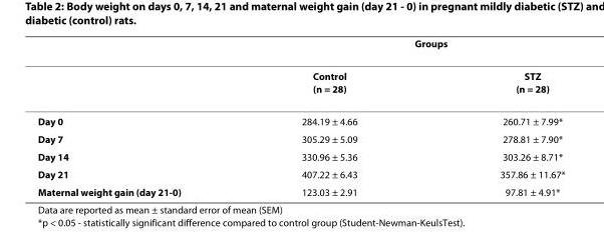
<table><thead><tr><td rowspan="2"></td><td colspan="2">Groups</td></tr><tr><td>Control (n = 28)</td><td>STZ (n = 28)</td></tr></thead><tbody><tr><td>Day 0</td><td>284.19 ± 4.66</td><td>260.71 ± 7.99*</td></tr><tr><td>Day 7</td><td>305.29 ± 5.09</td><td>278.81 ± 7.90*</td></tr><tr><td>Day 14</td><td>330.96 ± 5.36</td><td>303.26 ± 8.71*</td></tr><tr><td>Day 21</td><td>407.22 ± 6.43</td><td>357.86 ± 11.67*</td></tr><tr><td>Maternal weight gain (day 21-0)</td><td>123.03 ± 2.91</td><td>97.81 ± 4.91*</td></tr></tbody></table>